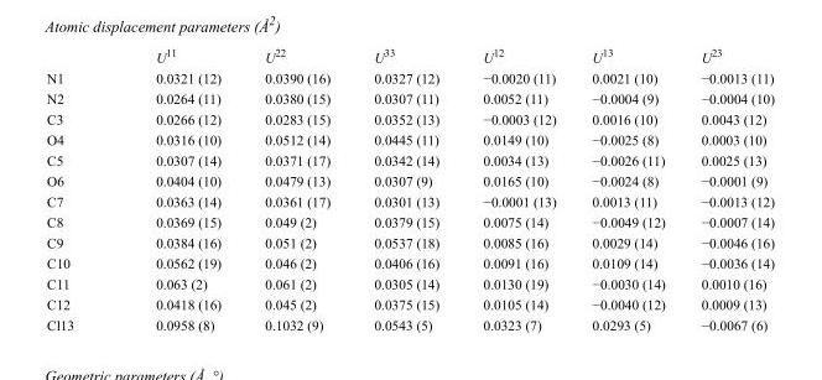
<table><thead><tr><td></td><td>U<sup>11</sup></td><td>U<sup>22</sup></td><td>U<sup>33</sup></td><td>U<sup>12</sup></td><td>U<sup>13</sup></td><td>U<sup>23</sup></td></tr></thead><tbody><tr><td>N1</td><td>0.0321 (12)</td><td>0.0390 (16)</td><td>0.0327 (12)</td><td>−0.0020 (11)</td><td>0.0021 (10)</td><td>−0.0013 (11)</td></tr><tr><td>N2</td><td>0.0264 (11)</td><td>0.0380 (15)</td><td>0.0307 (11)</td><td>0.0052 (11)</td><td>−0.0004 (9)</td><td>−0.0004 (10)</td></tr><tr><td>C3</td><td>0.0266 (12)</td><td>0.0283 (15)</td><td>0.0352 (13)</td><td>−0.0003 (12)</td><td>0.0016 (10)</td><td>0.0043 (12)</td></tr><tr><td>O4</td><td>0.0316 (10)</td><td>0.0512 (14)</td><td>0.0445 (11)</td><td>0.0149 (10)</td><td>−0.0025 (8)</td><td>0.0003 (10)</td></tr><tr><td>C5</td><td>0.0307 (14)</td><td>0.0371 (17)</td><td>0.0342 (14)</td><td>0.0034 (13)</td><td>−0.0026 (11)</td><td>0.0025 (13)</td></tr><tr><td>O6</td><td>0.0404 (10)</td><td>0.0479 (13)</td><td>0.0307 (9)</td><td>0.0165 (10)</td><td>−0.0024 (8)</td><td>−0.0001 (9)</td></tr><tr><td>C7</td><td>0.0363 (14)</td><td>0.0361 (17)</td><td>0.0301 (13)</td><td>−0.0001 (13)</td><td>0.0013 (11)</td><td>−0.0013 (12)</td></tr><tr><td>C8</td><td>0.0369 (15)</td><td>0.049 (2)</td><td>0.0379 (15)</td><td>0.0075 (14)</td><td>−0.0049 (12)</td><td>−0.0007 (14)</td></tr><tr><td>C9</td><td>0.0384 (16)</td><td>0.051 (2)</td><td>0.0537 (18)</td><td>0.0085 (16)</td><td>0.0029 (14)</td><td>−0.0046 (16)</td></tr><tr><td>C10</td><td>0.0562 (19)</td><td>0.046 (2)</td><td>0.0406 (16)</td><td>0.0091 (16)</td><td>0.0109 (14)</td><td>−0.0036 (14)</td></tr><tr><td>C11</td><td>0.063 (2)</td><td>0.061 (2)</td><td>0.0305 (14)</td><td>0.0130 (19)</td><td>−0.0030 (14)</td><td>0.0010 (16)</td></tr><tr><td>C12</td><td>0.0418 (16)</td><td>0.045 (2)</td><td>0.0375 (15)</td><td>0.0105 (14)</td><td>−0.0040 (12)</td><td>0.0009 (13)</td></tr><tr><td>Cl13</td><td>0.0958 (8)</td><td>0.1032 (9)</td><td>0.0543 (5)</td><td>0.0323 (7)</td><td>0.0293 (5)</td><td>−0.0067 (6)</td></tr></tbody></table>